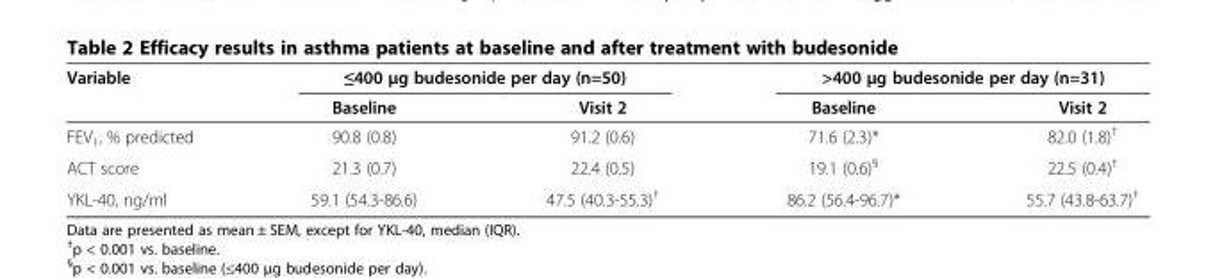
<table><thead><tr><td rowspan="2">Variable</td><td colspan="2">≤400 μg budesonide per day (n=50)</td><td colspan="2">&gt;400 μg budesonide per day (n=31)</td></tr><tr><td>Baseline</td><td>Visit 2</td><td>Baseline</td><td>Visit 2</td></tr></thead><tbody><tr><td>FEV<sub>1</sub>, % predicted</td><td>90.8 (0.8)</td><td>91.2 (0.6)</td><td>71.6 (2.3)*</td><td>82.0 (1.8)<sup>†</sup></td></tr><tr><td>ACT score</td><td>21.3 (0.7)</td><td>22.4 (0.5)</td><td>19.1 (0.6)<sup>§</sup></td><td>22.5 (0.4)<sup>†</sup></td></tr><tr><td>YKL-40, ng/ml</td><td>59.1 (54.3-86.6)</td><td>47.5 (40.3-55.3)<sup>†</sup></td><td>86.2 (56.4-96.7)*</td><td>55.7 (43.8-63.7)<sup>†</sup></td></tr></tbody></table>